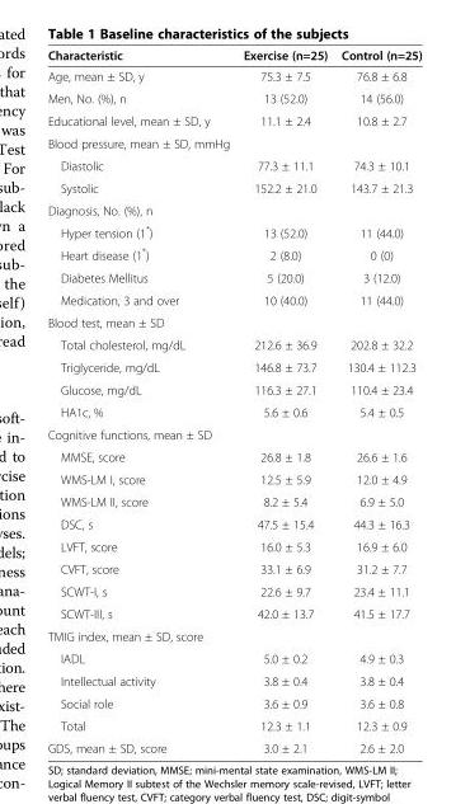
<table><thead><tr><td>Characteristic</td><td>Exercise (n=25)</td><td>Control (n=25)</td></tr></thead><tbody><tr><td>Age, mean ± SD, y</td><td>75.3 ± 7.5</td><td>76.8 ± 6.8</td></tr><tr><td>Men, No. (%), n</td><td>13 (52.0)</td><td>14 (56.0)</td></tr><tr><td>Educational level, mean ± SD, y</td><td>11.1 ± 2.4</td><td>10.8 ± 2.7</td></tr><tr><td colspan="3">Blood pressure, mean ± SD, mmHg</td></tr><tr><td>Diastolic</td><td>77.3 ± 11.1</td><td>74.3 ± 10.1</td></tr><tr><td>Systolic</td><td>152.2 ± 21.0</td><td>143.7 ± 21.3</td></tr><tr><td colspan="3">Diagnosis, No. (%), n</td></tr><tr><td>Hyper tension (1*)</td><td>13 (52.0)</td><td>11 (44.0)</td></tr><tr><td>Heart disease (1*)</td><td>2 (8.0)</td><td>0 (0)</td></tr><tr><td>Diabetes Mellitus</td><td>5 (20.0)</td><td>3 (12.0)</td></tr><tr><td>Medication, 3 and over</td><td>10 (40.0)</td><td>11 (44.0)</td></tr><tr><td colspan="3">Blood test, mean ± SD</td></tr><tr><td>Total cholesterol, mg/dL</td><td>212.6 ± 36.9</td><td>202.8 ± 32.2</td></tr><tr><td>Triglyceride, mg/dL</td><td>146.8 ± 73.7</td><td>130.4 ± 112.3</td></tr><tr><td>Glucose, mg/dL</td><td>116.3 ± 27.1</td><td>110.4 ± 23.4</td></tr><tr><td>HA1c, %</td><td>5.6 ± 0.6</td><td>5.4 ± 0.5</td></tr><tr><td colspan="3">Cognitive functions, mean ± SD</td></tr><tr><td>MMSE, score</td><td>26.8 ± 1.8</td><td>26.6 ± 1.6</td></tr><tr><td>WMS-LM I, score</td><td>12.5 ± 5.9</td><td>12.0 ± 4.9</td></tr><tr><td>WMS-LM II, score</td><td>8.2 ± 5.4</td><td>6.9 ± 5.0</td></tr><tr><td>DSC, s</td><td>47.5 ± 15.4</td><td>44.3 ± 16.3</td></tr><tr><td>LVFT, score</td><td>16.0 ± 5.3</td><td>16.9 ± 6.0</td></tr><tr><td>CVFT, score</td><td>33.1 ± 6.9</td><td>31.2 ± 7.7</td></tr><tr><td>SCWT-I, s</td><td>22.6 ± 9.7</td><td>23.4 ± 11.1</td></tr><tr><td>SCWT-III, s</td><td>42.0 ± 13.7</td><td>41.5 ± 17.7</td></tr><tr><td colspan="3">TMIG index, mean ± SD, score</td></tr><tr><td>IADL</td><td>5.0 ± 0.2</td><td>4.9 ± 0.3</td></tr><tr><td>Intellectual activity</td><td>3.8 ± 0.4</td><td>3.8 ± 0.4</td></tr><tr><td>Social role</td><td>3.6 ± 0.9</td><td>3.6 ± 0.8</td></tr><tr><td>Total</td><td>12.3 ± 1.1</td><td>12.3 ± 0.9</td></tr><tr><td>GDS, mean ± SD, score</td><td>3.0 ± 2.1</td><td>2.6 ± 2.0</td></tr></tbody></table>